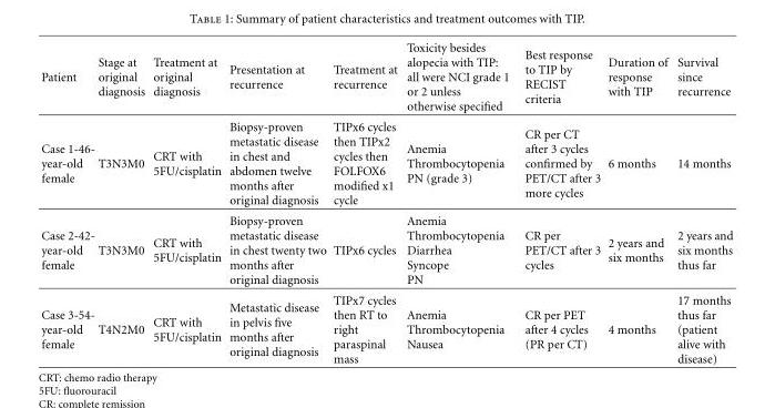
<table><thead><tr><td>Patient</td><td>Stage at original diagnosis</td><td>Treatment at original diagnosis</td><td>Presentation at recurrence</td><td>Treatment at recurrence</td><td>Toxicity besides alopecia with TIP: all were NCI grade 1 or 2 unless otherwise specified</td><td>Best response to TIP by RECIST criteria</td><td>Duration of response with TIP</td><td>Survival since recurrence</td></tr></thead><tbody><tr><td>Case 1-46- year-old female</td><td>T3N3M0</td><td>CRT with 5FU/cisplatin</td><td>Biopsy-proven metastatic disease in chest and abdomen twelve months after original diagnosis</td><td>TIPx6 cycles then TIPx2 cycles then FOLFOX6 modified x1 cycle</td><td>Anemia Thrombocytopenia PN (grade 3)</td><td>CR per CT after 3 cycles confirmed by PET/CT after 3 more cycles</td><td>6 months</td><td>14 months</td></tr><tr><td>Case 2-42- year-old female</td><td>T3N3M0</td><td>CRT with 5FU/cisplatin</td><td>Biopsy-proven metastatic disease in chest twenty two months after original diagnosis</td><td>TIPx6 cycles</td><td>Anemia Thrombocytopenia Diarrhea Syncope PN</td><td>CR per PET/CT after 3 cycles</td><td>2 years and six months</td><td>2 years and six months thus far</td></tr><tr><td>Case 3-54- year-old female</td><td>T4N2M0</td><td>CRT with 5FU/cisplatin</td><td>Metastatic disease in pelvis five months after original diagnosis</td><td>TIPx7 cycles then RT to right paraspinal mass</td><td>Anemia Thrombocytopenia Nausea</td><td>CR per PET after 4 cycles (PR per CT)</td><td>4 months</td><td>17 months thus far (patient alive with disease)</td></tr></tbody></table>